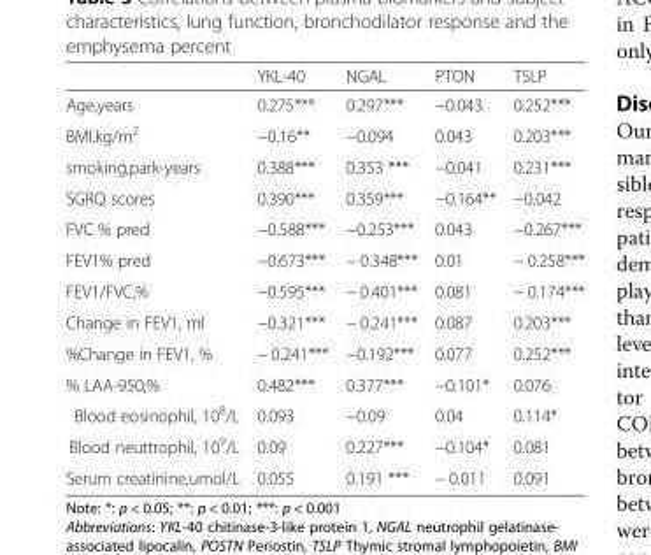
<table><thead><tr><td></td><td>YKL-40</td><td>NGAL</td><td>PTON</td><td>TSLP</td></tr></thead><tbody><tr><td>Age,years</td><td>0.275***</td><td>0.297***</td><td>−0.043</td><td>0.252***</td></tr><tr><td>BMI,kg/m<sup>2</sup></td><td>−0.16**</td><td>−0.094</td><td>0.043</td><td>0.203***</td></tr><tr><td>smoking,park-years</td><td>0.388***</td><td>0.353 ***</td><td>−0.041</td><td>0.231***</td></tr><tr><td>SGRQ scores</td><td>0.390***</td><td>0.359***</td><td>−0.164**</td><td>−0.042</td></tr><tr><td>FVC % pred</td><td>−0.588***</td><td>−0.253***</td><td>0.043</td><td>−0.267***</td></tr><tr><td>FEV1% pred</td><td>−0.673***</td><td>− 0.348***</td><td>0.01</td><td>− 0.258***</td></tr><tr><td>FEV1/FVC,%</td><td>−0.595***</td><td>− 0.401***</td><td>0.081</td><td>− 0.174***</td></tr><tr><td>Change in FEV1, ml</td><td>−0.321***</td><td>− 0.241***</td><td>0.087</td><td>0.203***</td></tr><tr><td>%Change in FEV1, %</td><td>− 0.241***</td><td>−0.192***</td><td>0.077</td><td>0.252***</td></tr><tr><td>% LAA-950,%</td><td>0.482***</td><td>0.377***</td><td>−0.101*</td><td>0.076</td></tr><tr><td>Blood eosinophil, 10<sup>8</sup>/L</td><td>0.093</td><td>−0.09</td><td>0.04</td><td>0.114*</td></tr><tr><td>Blood neuttrophil, 10<sup>9</sup>/L</td><td>0.09</td><td>0.227***</td><td>−0.104*</td><td>0.081</td></tr><tr><td>Serum creatinine,umol/L</td><td>0.055</td><td>0.191 ***</td><td>− 0.011</td><td>0.091</td></tr></tbody></table>